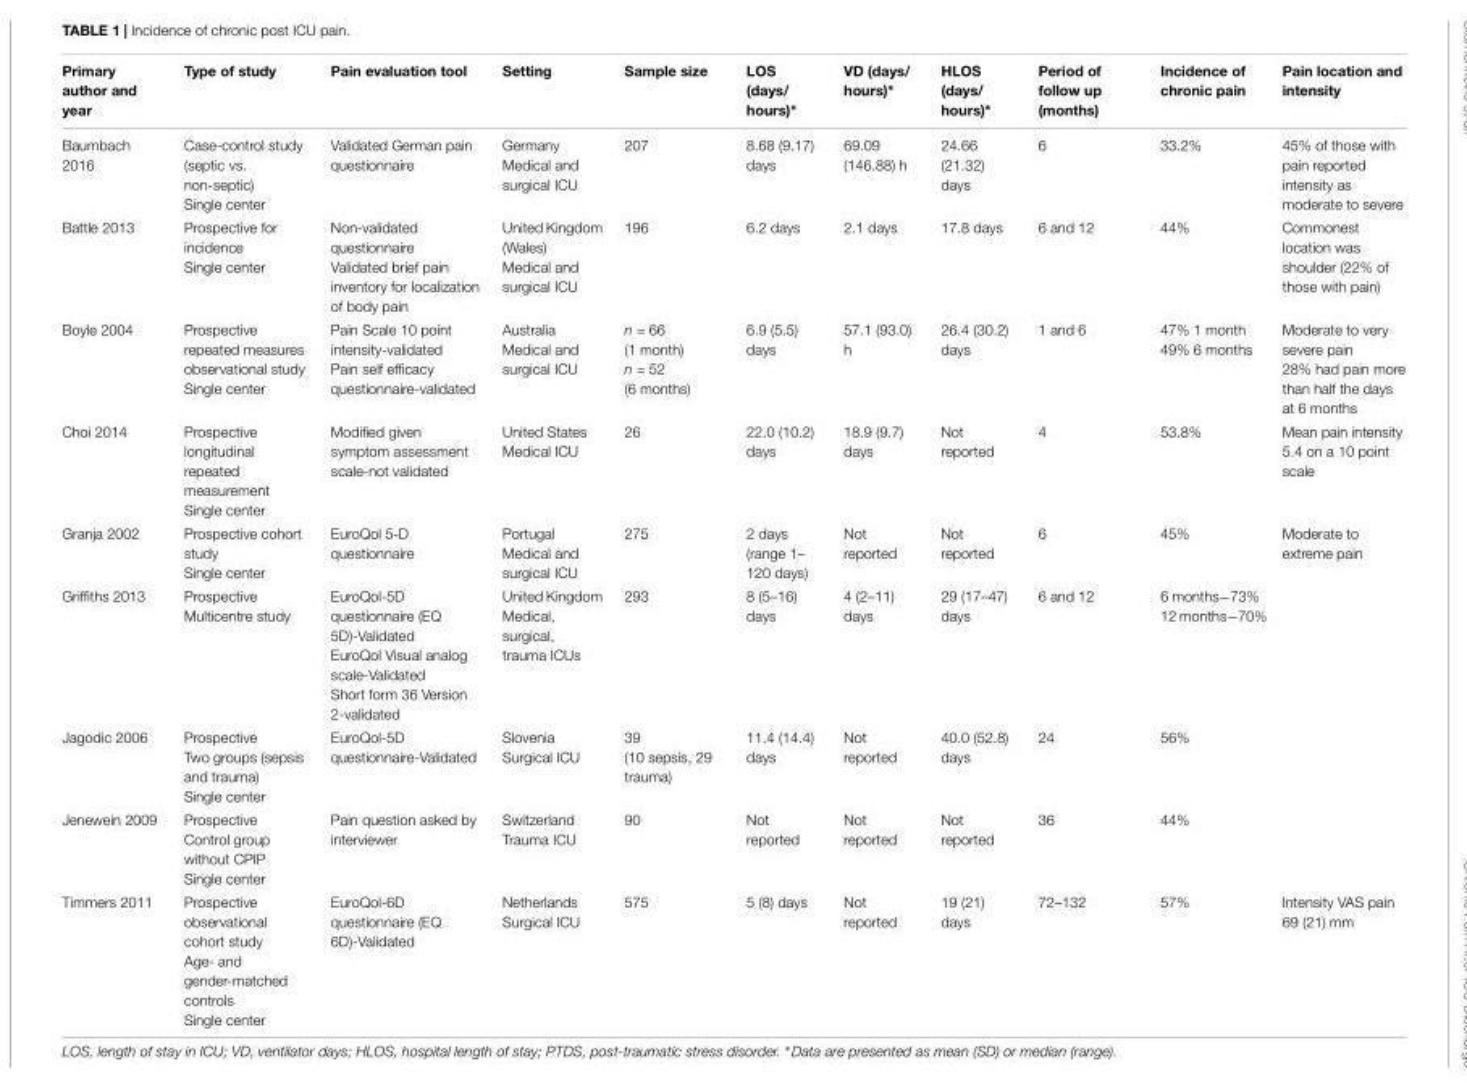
<table><thead><tr><td>Primary author and year</td><td>Type of study</td><td>Pain evaluation tool</td><td>Setting</td><td>Sample size</td><td>LOS (days/ hours)∗</td><td>VD (days/ hours)∗</td><td>HLOS (days/ hours)∗</td><td>Period of follow up (months)</td><td>Incidence of chronic pain</td><td>Pain location and intensity</td></tr></thead><tbody><tr><td>Baumbach 2016</td><td>Case-control study (septic vs. non-septic) Single center</td><td>Validated German pain questionnaire</td><td>Germany Medical and surgical ICU</td><td>207</td><td>8.68 (9.17) days</td><td>69.09 (146.88) h</td><td>24.66 (21.32) days</td><td>6</td><td>33.2%</td><td>45% of those with pain reported intensity as moderate to severe</td></tr><tr><td>Battle 2013</td><td>Prospective for incidence Single center</td><td>Non-validated questionnaire Validated brief pain inventory for localization of body pain</td><td>United Kingdom (Wales) Medical and surgical ICU</td><td>196</td><td>6.2 days</td><td>2.1 days</td><td>17.8 days</td><td>6 and 12</td><td>44%</td><td>Commonest location was shoulder (22% of those with pain)</td></tr><tr><td>Boyle 2004</td><td>Prospective repeated measures observational study Single center</td><td>Pain Scale 10 point intensity-validated Pain self efficacy questionnaire-validated</td><td>Australia Medical and surgical ICU</td><td>n = 66 (1 month) n = 52 (6 months)</td><td>6.9 (5.5) days</td><td>57.1 (93.0) h</td><td>26.4 (30.2) days</td><td>1 and 6</td><td>47% 1 month 49% 6 months</td><td>Moderate to very severe pain 28% had pain more than half the days at 6 months</td></tr><tr><td>Choi 2014</td><td>Prospective longitudinal repeated measurement Single center</td><td>Modified given symptom assessment scale-not validated</td><td>United States Medical ICU</td><td>26</td><td>22.0 (10.2) days</td><td>18.9 (9.7) days</td><td>Not reported</td><td>4</td><td>53.8%</td><td>Mean pain intensity 5.4 on a 10 point scale</td></tr><tr><td>Granja 2002</td><td>Prospective cohort study Single center</td><td>EuroQol 5-D questionnaire</td><td>Portugal Medical and surgical ICU</td><td>275</td><td>2 days (range 1– 120 days)</td><td>Not reported</td><td>Not reported</td><td>6</td><td>45%</td><td>Moderate to extreme pain</td></tr><tr><td>Griffiths 2013</td><td>Prospective Multicentre study</td><td>EuroQol-5D questionnaire (EQ 5D)-Validated EuroQol Visual analog scale-Validated Short form 36 Version 2-validated</td><td>United Kingdom Medical, surgical, trauma ICUs</td><td>293</td><td>8 (5–16) days</td><td>4 (2–11) days</td><td>29 (17–47) days</td><td>6 and 12</td><td>6 months−73% 12 months−70%</td><td></td></tr><tr><td>Jagodic 2006</td><td>Prospective Two groups (sepsis and trauma) Single center</td><td>EuroQol-5D questionnaire-Validated</td><td>Slovenia Surgical ICU</td><td>39 (10 sepsis, 29 trauma)</td><td>11.4 (14.4) days</td><td>Not reported</td><td>40.0 (52.8) days</td><td>24</td><td>56%</td><td></td></tr><tr><td>Jenewein 2009</td><td>Prospective Control group without CPIP Single center</td><td>Pain question asked by interviewer</td><td>Switzerland Trauma ICU</td><td>90</td><td>Not reported</td><td>Not reported</td><td>Not reported</td><td>36</td><td>44%</td><td></td></tr><tr><td>Timmers 2011</td><td>Prospective observational cohort study Age- and gender-matched controls Single center</td><td>EuroQol-6D questionnaire (EQ 6D)-Validated</td><td>Netherlands Surgical ICU</td><td>575</td><td>5 (8) days</td><td>Not reported</td><td>19 (21) days</td><td>72–132</td><td>57%</td><td>Intensity VAS pain 69 (21) mm</td></tr></tbody></table>